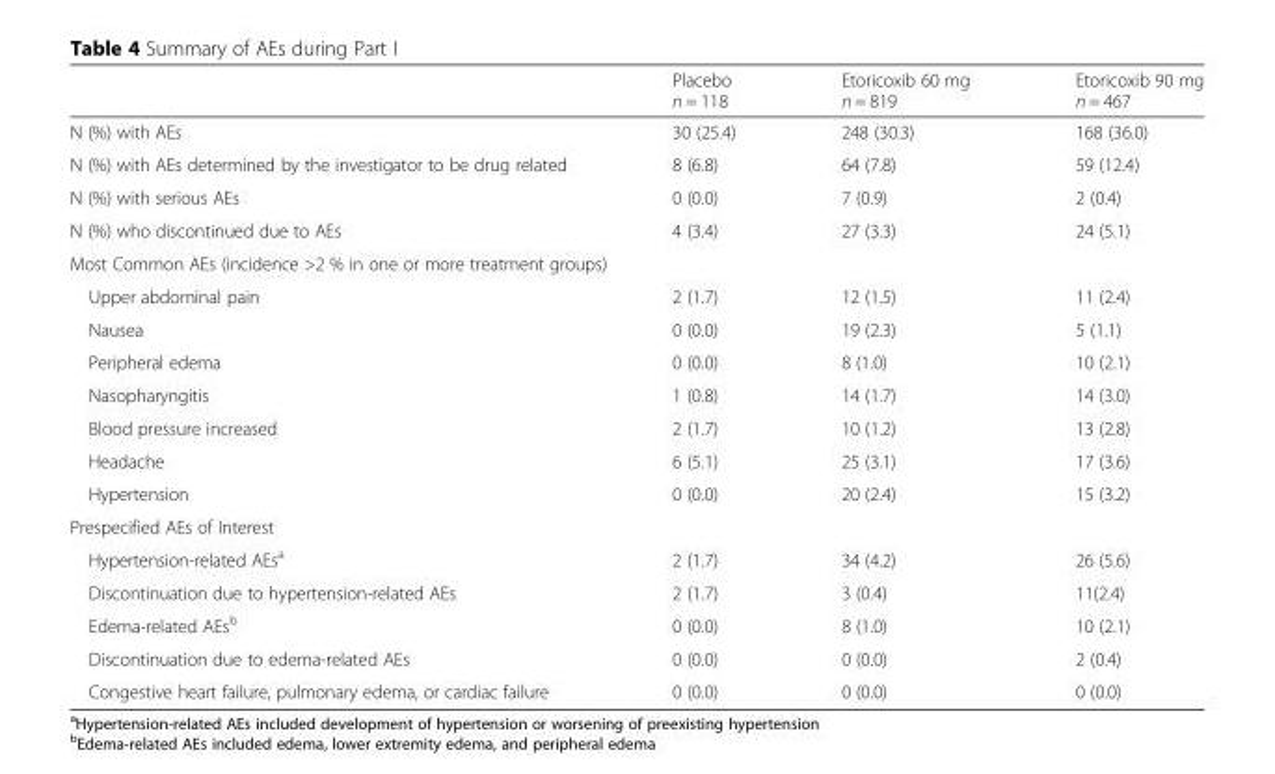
<table><thead><tr><td></td><td>Placebo n = 118</td><td>Etoricoxib 60 mg n = 819</td><td>Etoricoxib 90 mg n = 467</td></tr></thead><tbody><tr><td>N (%) with AEs</td><td>30 (25.4)</td><td>248 (30.3)</td><td>168 (36.0)</td></tr><tr><td>N (%) with AEs determined by the investigator to be drug related</td><td>8 (6.8)</td><td>64 (7.8)</td><td>59 (12.4)</td></tr><tr><td>N (%) with serious AEs</td><td>0 (0.0)</td><td>7 (0.9)</td><td>2 (0.4)</td></tr><tr><td>N (%) who discontinued due to AEs</td><td>4 (3.4)</td><td>27 (3.3)</td><td>24 (5.1)</td></tr><tr><td colspan="4">Most Common AEs (incidence &gt;2 % in one or more treatment groups)</td></tr><tr><td>Upper abdominal pain</td><td>2 (1.7)</td><td>12 (1.5)</td><td>11 (2.4)</td></tr><tr><td>Nausea</td><td>0 (0.0)</td><td>19 (2.3)</td><td>5 (1.1)</td></tr><tr><td>Peripheral edema</td><td>0 (0.0)</td><td>8 (1.0)</td><td>10 (2.1)</td></tr><tr><td>Nasopharyngitis</td><td>1 (0.8)</td><td>14 (1.7)</td><td>14 (3.0)</td></tr><tr><td>Blood pressure increased</td><td>2 (1.7)</td><td>10 (1.2)</td><td>13 (2.8)</td></tr><tr><td>Headache</td><td>6 (5.1)</td><td>25 (3.1)</td><td>17 (3.6)</td></tr><tr><td>Hypertension</td><td>0 (0.0)</td><td>20 (2.4)</td><td>15 (3.2)</td></tr><tr><td colspan="4">Prespecified AEs of Interest</td></tr><tr><td>Hypertension-related AEs<sup>a</sup></td><td>2 (1.7)</td><td>34 (4.2)</td><td>26 (5.6)</td></tr><tr><td>Discontinuation due to hypertension-related AEs</td><td>2 (1.7)</td><td>3 (0.4)</td><td>11(2.4)</td></tr><tr><td>Edema-related AEs<sup>b</sup></td><td>0 (0.0)</td><td>8 (1.0)</td><td>10 (2.1)</td></tr><tr><td>Discontinuation due to edema-related AEs</td><td>0 (0.0)</td><td>0 (0.0)</td><td>2 (0.4)</td></tr><tr><td>Congestive heart failure, pulmonary edema, or cardiac failure</td><td>0 (0.0)</td><td>0 (0.0)</td><td>0 (0.0)</td></tr></tbody></table>